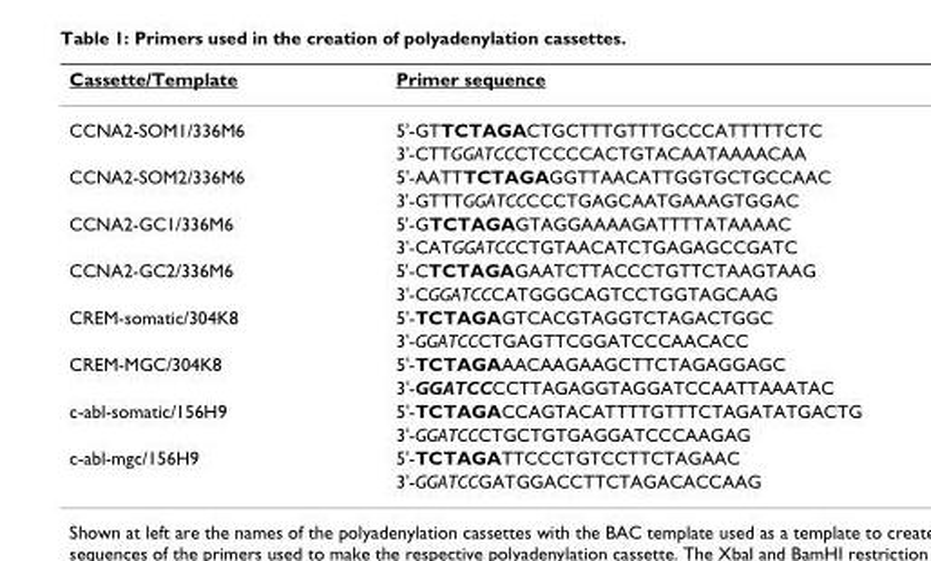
<table><thead><tr><td>Cassette/Template</td><td>Primer sequence</td></tr></thead><tbody><tr><td rowspan="2">CCNA2-SOM1/336M6</td><td>5&#x27;-GTTCTAGACTGCTTTGTTTGCCCATTTTTCTC</td></tr><tr><td>3&#x27;-CTTGGATCCCTCCCCACTGTACAATAAAACAA</td></tr><tr><td rowspan="2">CCNA2-SOM2/336M6</td><td>5&#x27;-AATTTCTAGAGGTTAACATTGGTGCTGCCAAC</td></tr><tr><td>3&#x27;-GTTTGGATCCCCCTGAGCAATGAAAGTGGAC</td></tr><tr><td rowspan="2">CCNA2-GC1/336M6</td><td>5&#x27;-GTCTAGAGTAGGAAAAGATTTTATAAAAC</td></tr><tr><td>3&#x27;-CATGGATCCCTGTAACATCTGAGAGCCGATC</td></tr><tr><td rowspan="2">CCNA2-GC2/336M6</td><td>5&#x27;-CTCTAGAGAATCTTACCCTGTTCTAAGTAAG</td></tr><tr><td>3&#x27;-CGGATCCCATGGGCAGTCCTGGTAGCAAG</td></tr><tr><td rowspan="2">CREM-somatic/304K8</td><td>5&#x27;-TCTAGAGTCACGTAGGTCTAGACTGGC</td></tr><tr><td>3&#x27;-GGATCCCTGAGTTCGGATCCCAACACC</td></tr><tr><td rowspan="2">CREM-MGC/304K8</td><td>5&#x27;-TCTAGAAACAAGAAGCTTCTAGAGGAGC</td></tr><tr><td>3&#x27;-GGATCCCCTTAGAGGTAGGATCCAATTAAATAC</td></tr><tr><td rowspan="2">c-abl-somatic/156H9</td><td>5&#x27;-TCTAGACCAGTACATTTTGTTTCTAGATATGACTG</td></tr><tr><td>3&#x27;-GGATCCCTGCTGTGAGGATCCCAAGAG</td></tr><tr><td rowspan="2">c-abl-mgc/156H9</td><td>5&#x27;-TCTAGATTCCCTGTCCTTCTAGAAC</td></tr><tr><td>3&#x27;-GGATCCGATGGACCTTCTAGACACCAAG</td></tr></tbody></table>